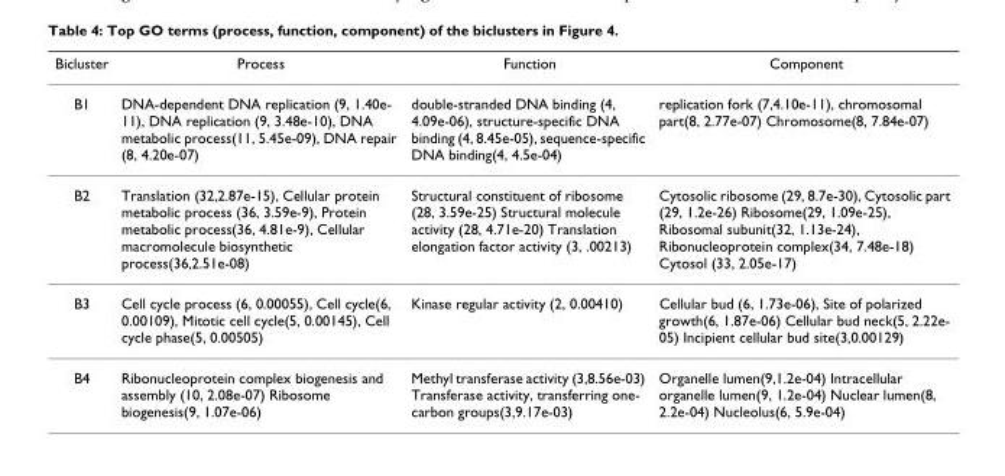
<table><thead><tr><td>Bicluster</td><td>Process</td><td>Function</td><td>Component</td></tr></thead><tbody><tr><td>B1</td><td>DNA-dependent DNA replication (9, 1.40e- 11), DNA replication (9, 3.48e-10), DNA metabolic process(11, 5.45e-09), DNA repair (8, 4.20e-07)</td><td>double-stranded DNA binding (4, 4.09e-06), structure-specific DNA binding (4, 8.45e-05), sequence-specific DNA binding(4, 4.5e-04)</td><td>replication fork (7,4.10e-11), chromosomal part(8, 2.77e-07) Chromosome(8, 7.84e-07)</td></tr><tr><td>B2</td><td>Translation (32,2.87e-15), Cellular protein metabolic process (36, 3.59e-9), Protein metabolic process(36, 4.81e-9), Cellular macromolecule biosynthetic process(36,2.51e-08)</td><td>Structural constituent of ribosome (28, 3.59e-25) Structural molecule activity (28, 4.71e-20) Translation elongation factor activity (3, .00213)</td><td>Cytosolic ribosome (29, 8.7e-30), Cytosolic part (29, 1.2e-26) Ribosome(29, 1.09e-25), Ribosomal subunit(32, 1.13e-24), Ribonucleoprotein complex(34, 7.48e-18) Cytosol (33, 2.05e-17)</td></tr><tr><td>B3</td><td>Cell cycle process (6, 0.00055), Cell cycle(6, 0.00109), Mitotic cell cycle(5, 0.00145), Cell cycle phase(5, 0.00505)</td><td>Kinase regular activity (2, 0.00410)</td><td>Cellular bud (6, 1.73e-06), Site of polarized growth(6, 1.87e-06) Cellular bud neck(5, 2.22e- 05) Incipient cellular bud site(3,0.00129)</td></tr><tr><td>B4</td><td>Ribonucleoprotein complex biogenesis and assembly (10, 2.08e-07) Ribosome biogenesis(9, 1.07e-06)</td><td>Methyl transferase activity (3,8.56e-03) Transferase activity, transferring one- carbon groups(3,9.17e-03)</td><td>Organelle lumen(9,1.2e-04) Intracellular organelle lumen(9, 1.2e-04) Nuclear lumen(8, 2.2e-04) Nucleolus(6, 5.9e-04)</td></tr></tbody></table>